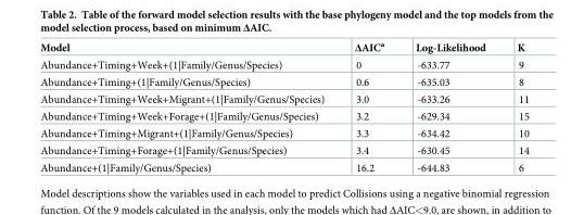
<table><thead><tr><td>Model</td><td>ΔAIC<sup>a</sup></td><td>Log-Likelihood</td><td>K</td></tr></thead><tbody><tr><td>Abundance+Timing+Week+(1|Family/Genus/Species)</td><td>0</td><td>-633.77</td><td>9</td></tr><tr><td>Abundance+Timing+(1|Family/Genus/Species)</td><td>0.6</td><td>-635.03</td><td>8</td></tr><tr><td>Abundance+Timing+Week+Migrant+(1|Family/Genus/Species)</td><td>3.0</td><td>-633.26</td><td>11</td></tr><tr><td>Abundance+Timing+Week+Forage+(1|Family/Genus/Species)</td><td>3.2</td><td>-629.34</td><td>15</td></tr><tr><td>Abundance+Timing+Migrant+(1|Family/Genus/Species)</td><td>3.3</td><td>-634.42</td><td>10</td></tr><tr><td>Abundance+Timing+Forage+(1|Family/Genus/Species)</td><td>3.4</td><td>-630.45</td><td>14</td></tr><tr><td>Abundance+(1|Family/Genus/Species)</td><td>16.2</td><td>-644.83</td><td>6</td></tr></tbody></table>